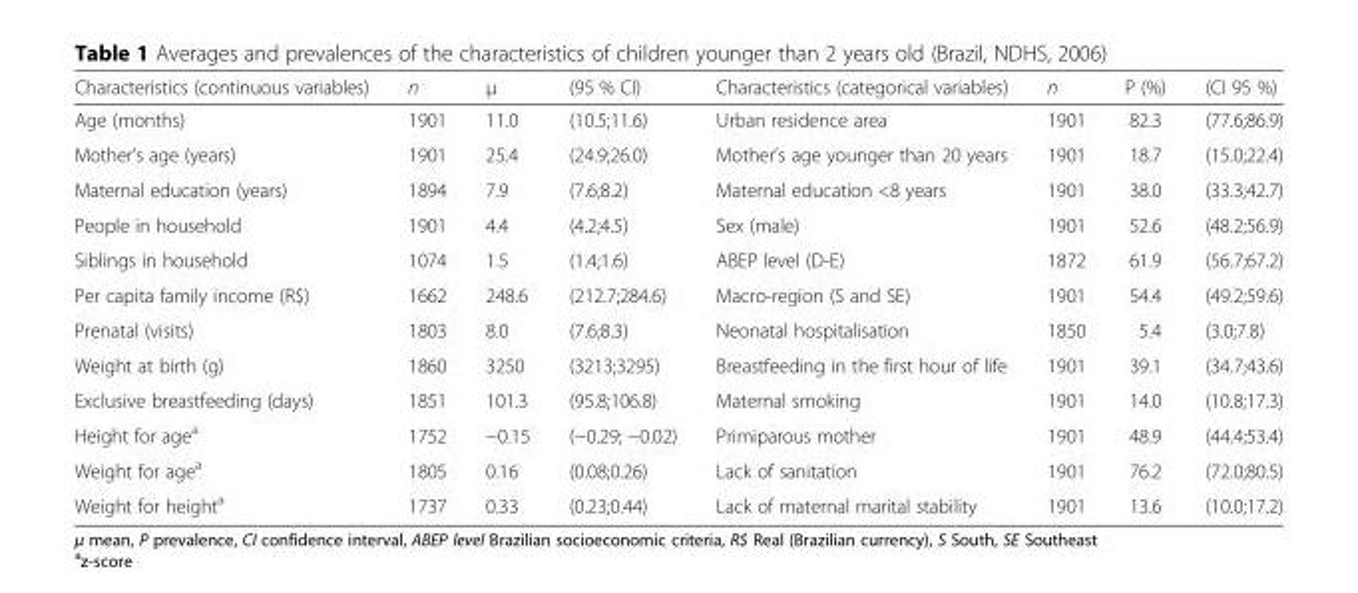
<table><thead><tr><td>Characteristics (continuous variables)</td><td>n</td><td>μ</td><td>(95 % CI)</td><td>Characteristics (categorical variables)</td><td>n</td><td>P (%)</td><td>(CI 95 %)</td></tr></thead><tbody><tr><td>Age (months)</td><td>1901</td><td>11.0</td><td>(10.5;11.6)</td><td>Urban residence area</td><td>1901</td><td>82.3</td><td>(77.6;86.9)</td></tr><tr><td>Mother’s age (years)</td><td>1901</td><td>25.4</td><td>(24.9;26.0)</td><td>Mother’s age younger than 20 years</td><td>1901</td><td>18.7</td><td>(15.0;22.4)</td></tr><tr><td>Maternal education (years)</td><td>1894</td><td>7.9</td><td>(7.6;8.2)</td><td>Maternal education &lt;8 years</td><td>1901</td><td>38.0</td><td>(33.3;42.7)</td></tr><tr><td>People in household</td><td>1901</td><td>4.4</td><td>(4.2;4.5)</td><td>Sex (male)</td><td>1901</td><td>52.6</td><td>(48.2;56.9)</td></tr><tr><td>Siblings in household</td><td>1074</td><td>1.5</td><td>(1.4;1.6)</td><td>ABEP level (D-E)</td><td>1872</td><td>61.9</td><td>(56.7;67.2)</td></tr><tr><td>Per capita family income (R$)</td><td>1662</td><td>248.6</td><td>(212.7;284.6)</td><td>Macro-region (S and SE)</td><td>1901</td><td>54.4</td><td>(49.2;59.6)</td></tr><tr><td>Prenatal (visits)</td><td>1803</td><td>8.0</td><td>(7.6;8.3)</td><td>Neonatal hospitalisation</td><td>1850</td><td>5.4</td><td>(3.0;7.8)</td></tr><tr><td>Weight at birth (g)</td><td>1860</td><td>3250</td><td>(3213;3295)</td><td>Breastfeeding in the first hour of life</td><td>1901</td><td>39.1</td><td>(34.7;43.6)</td></tr><tr><td>Exclusive breastfeeding (days)</td><td>1851</td><td>101.3</td><td>(95.8;106.8)</td><td>Maternal smoking</td><td>1901</td><td>14.0</td><td>(10.8;17.3)</td></tr><tr><td>Height for age<sup>a</sup></td><td>1752</td><td>−0.15</td><td>(−0.29; −0.02)</td><td>Primiparous mother</td><td>1901</td><td>48.9</td><td>(44.4;53.4)</td></tr><tr><td>Weight for age<sup>a</sup></td><td>1805</td><td>0.16</td><td>(0.08;0.26)</td><td>Lack of sanitation</td><td>1901</td><td>76.2</td><td>(72.0;80.5)</td></tr><tr><td>Weight for height<sup>a</sup></td><td>1737</td><td>0.33</td><td>(0.23;0.44)</td><td>Lack of maternal marital stability</td><td>1901</td><td>13.6</td><td>(10.0;17.2)</td></tr></tbody></table>